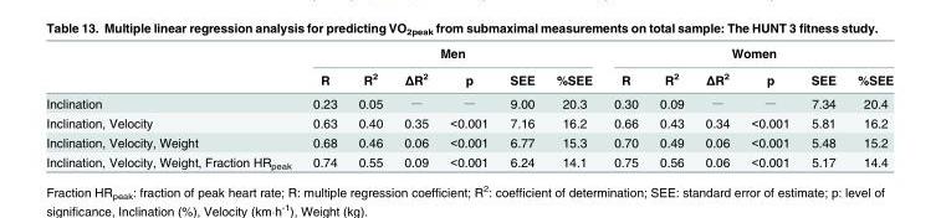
<table><thead><tr><td rowspan="2"></td><td colspan="6">Men</td><td colspan="6">Women</td></tr><tr><td>R</td><td>R<sup>2</sup></td><td>ΔR<sup>2</sup></td><td>p</td><td>SEE</td><td>%SEE</td><td>R</td><td>R<sup>2</sup></td><td>ΔR<sup>2</sup></td><td>p</td><td>SEE</td><td>%SEE</td></tr></thead><tbody><tr><td>Inclination</td><td>0.23</td><td>0.05</td><td><sup>__</sup></td><td><sup>__</sup></td><td>9.00</td><td>20.3</td><td>0.30</td><td>0.09</td><td><sup>__</sup></td><td><sup>__</sup></td><td>7.34</td><td>20.4</td></tr><tr><td>Inclination, Velocity</td><td>0.63</td><td>0.40</td><td>0.35</td><td>&lt;0.001</td><td>7.16</td><td>16.2</td><td>0.66</td><td>0.43</td><td>0.34</td><td>&lt;0.001</td><td>5.81</td><td>16.2</td></tr><tr><td>Inclination, Velocity, Weight</td><td>0.68</td><td>0.46</td><td>0.06</td><td>&lt;0.001</td><td>6.77</td><td>15.3</td><td>0.70</td><td>0.49</td><td>0.06</td><td>&lt;0.001</td><td>5.48</td><td>15.2</td></tr><tr><td>Inclination, Velocity, Weight, Fraction HR<sub>peak</sub></td><td>0.74</td><td>0.55</td><td>0.09</td><td>&lt;0.001</td><td>6.24</td><td>14.1</td><td>0.75</td><td>0.56</td><td>0.06</td><td>&lt;0.001</td><td>5.17</td><td>14.4</td></tr></tbody></table>